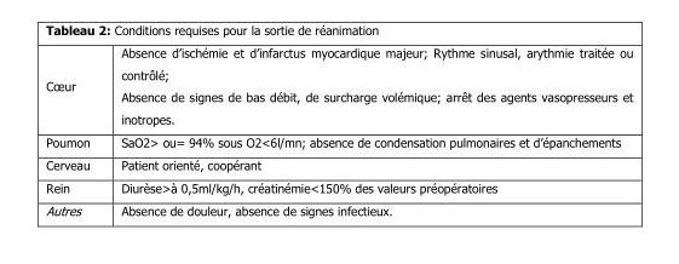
<table><tbody><tr><td>Cœur</td><td>Absence d’ischémie et d’infarctus myocardique majeur; Rythme sinusal, arythmie traitée ou contrôlé; Absence de signes de bas débit, de surcharge volémique; arrêt des agents vasopresseurs et inotropes.</td></tr><tr><td>Poumon</td><td>SaO2&gt; ou= 94% sous O2&lt;6l/mn; absence de condensation pulmonaires et d’épanchements</td></tr><tr><td>Cerveau</td><td>Patient orienté, coopérant</td></tr><tr><td>Rein</td><td>Diurèse&gt;à 0,5ml/kg/h, créatinémie&lt;150% des valeurs préopératoires</td></tr><tr><td>Autres</td><td>Absence de douleur, absence de signes infectieux.</td></tr></tbody></table>